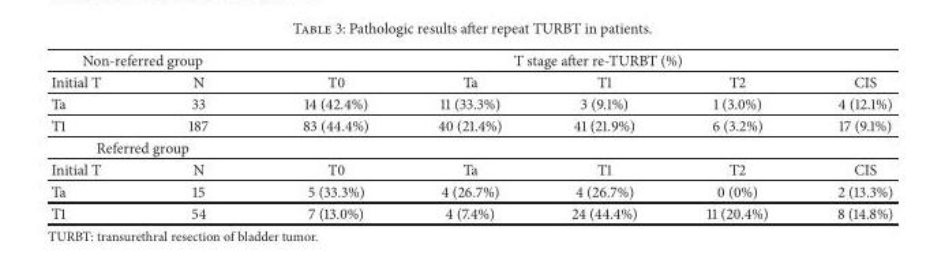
<table><tbody><tr><td colspan="2">Non-referred group</td><td colspan="5">T stage after re-TURBT (%)</td></tr><tr><td>Initial T</td><td>N</td><td>T0</td><td>Ta</td><td>T1</td><td>T2</td><td>CIS</td></tr><tr><td>Ta</td><td>33</td><td>14 (42.4%)</td><td>11 (33.3%)</td><td>3 (9.1%)</td><td>1 (3.0%)</td><td>4 (12.1%)</td></tr><tr><td>T1</td><td>187</td><td>83 (44.4%)</td><td>40 (21.4%)</td><td>41 (21.9%)</td><td>6 (3.2%)</td><td>17 (9.1%)</td></tr><tr><td colspan="7">Referred group</td></tr><tr><td>Initial T</td><td>N</td><td>T0</td><td>Ta</td><td>T1</td><td>T2</td><td>CIS</td></tr><tr><td>Ta</td><td>15</td><td>5 (33.3%)</td><td>4 (26.7%)</td><td>4 (26.7%)</td><td>0 (0%)</td><td>2 (13.3%)</td></tr><tr><td>T1</td><td>54</td><td>7 (13.0%)</td><td>4 (7.4%)</td><td>24 (44.4%)</td><td>11 (20.4%)</td><td>8 (14.8%)</td></tr></tbody></table>